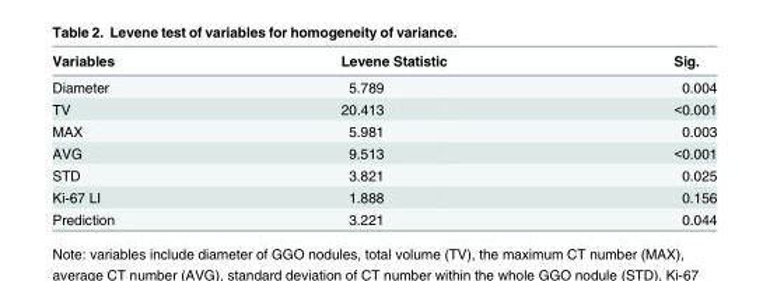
<table><thead><tr><td>Variables</td><td>Levene Statistic</td><td>Sig.</td></tr></thead><tbody><tr><td>Diameter</td><td>5.789</td><td>0.004</td></tr><tr><td>TV</td><td>20.413</td><td>&lt;0.001</td></tr><tr><td>MAX</td><td>5.981</td><td>0.003</td></tr><tr><td>AVG</td><td>9.513</td><td>&lt;0.001</td></tr><tr><td>STD</td><td>3.821</td><td>0.025</td></tr><tr><td>Ki-67 LI</td><td>1.888</td><td>0.156</td></tr><tr><td>Prediction</td><td>3.221</td><td>0.044</td></tr></tbody></table>